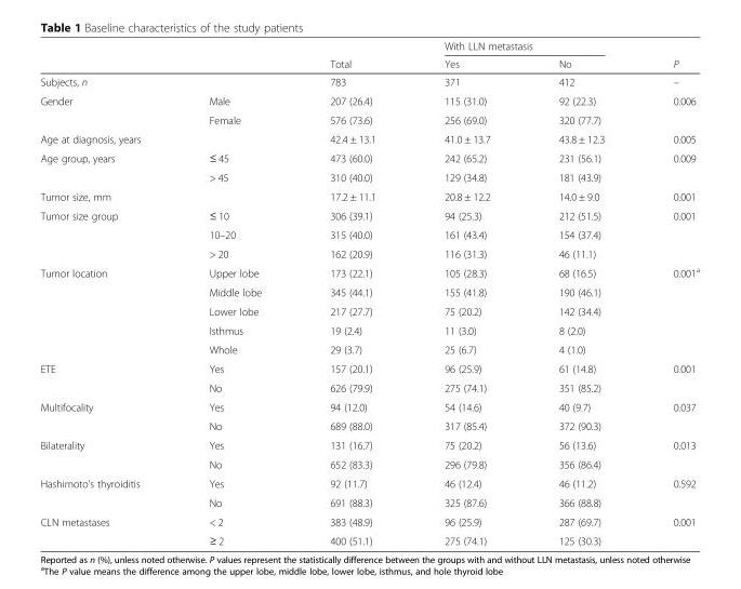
<table><thead><tr><td rowspan="2"></td><td rowspan="2"></td><td rowspan="2">Total</td><td colspan="2">With LLN metastasis</td><td rowspan="2">P</td></tr><tr><td>Yes</td><td>No</td></tr></thead><tbody><tr><td>Subjects, n</td><td></td><td>783</td><td>371</td><td>412</td><td>–</td></tr><tr><td rowspan="2">Gender</td><td>Male</td><td>207 (26.4)</td><td>115 (31.0)</td><td>92 (22.3)</td><td>0.006</td></tr><tr><td>Female</td><td>576 (73.6)</td><td>256 (69.0)</td><td>320 (77.7)</td><td></td></tr><tr><td>Age at diagnosis, years</td><td></td><td>42.4 ± 13.1</td><td>41.0 ± 13.7</td><td>43.8 ± 12.3</td><td>0.005</td></tr><tr><td rowspan="2">Age group, years</td><td>≤ 45</td><td>473 (60.0)</td><td>242 (65.2)</td><td>231 (56.1)</td><td>0.009</td></tr><tr><td>&gt; 45</td><td>310 (40.0)</td><td>129 (34.8)</td><td>181 (43.9)</td><td></td></tr><tr><td>Tumor size, mm</td><td></td><td>17.2 ± 11.1</td><td>20.8 ± 12.2</td><td>14.0 ± 9.0</td><td>0.001</td></tr><tr><td rowspan="3">Tumor size group</td><td>≤ 10</td><td>306 (39.1)</td><td>94 (25.3)</td><td>212 (51.5)</td><td>0.001</td></tr><tr><td>10–20</td><td>315 (40.0)</td><td>161 (43.4)</td><td>154 (37.4)</td><td></td></tr><tr><td>&gt; 20</td><td>162 (20.9)</td><td>116 (31.3)</td><td>46 (11.1)</td><td></td></tr><tr><td rowspan="5">Tumor location</td><td>Upper lobe</td><td>173 (22.1)</td><td>105 (28.3)</td><td>68 (16.5)</td><td>0.001<sup>a</sup></td></tr><tr><td>Middle lobe</td><td>345 (44.1)</td><td>155 (41.8)</td><td>190 (46.1)</td><td></td></tr><tr><td>Lower lobe</td><td>217 (27.7)</td><td>75 (20.2)</td><td>142 (34.4)</td><td></td></tr><tr><td>Isthmus</td><td>19 (2.4)</td><td>11 (3.0)</td><td>8 (2.0)</td><td></td></tr><tr><td>Whole</td><td>29 (3.7)</td><td>25 (6.7)</td><td>4 (1.0)</td><td></td></tr><tr><td rowspan="2">ETE</td><td>Yes</td><td>157 (20.1)</td><td>96 (25.9)</td><td>61 (14.8)</td><td>0.001</td></tr><tr><td>No</td><td>626 (79.9)</td><td>275 (74.1)</td><td>351 (85.2)</td><td></td></tr><tr><td rowspan="2">Multifocality</td><td>Yes</td><td>94 (12.0)</td><td>54 (14.6)</td><td>40 (9.7)</td><td>0.037</td></tr><tr><td>No</td><td>689 (88.0)</td><td>317 (85.4)</td><td>372 (90.3)</td><td></td></tr><tr><td rowspan="2">Bilaterality</td><td>Yes</td><td>131 (16.7)</td><td>75 (20.2)</td><td>56 (13.6)</td><td>0.013</td></tr><tr><td>No</td><td>652 (83.3)</td><td>296 (79.8)</td><td>356 (86.4)</td><td></td></tr><tr><td rowspan="2">Hashimoto’s thyroiditis</td><td>Yes</td><td>92 (11.7)</td><td>46 (12.4)</td><td>46 (11.2)</td><td>0.592</td></tr><tr><td>No</td><td>691 (88.3)</td><td>325 (87.6)</td><td>366 (88.8)</td><td></td></tr><tr><td rowspan="2">CLN metastases</td><td>&lt; 2</td><td>383 (48.9)</td><td>96 (25.9)</td><td>287 (69.7)</td><td>0.001</td></tr><tr><td>≥ 2</td><td>400 (51.1)</td><td>275 (74.1)</td><td>125 (30.3)</td><td></td></tr></tbody></table>